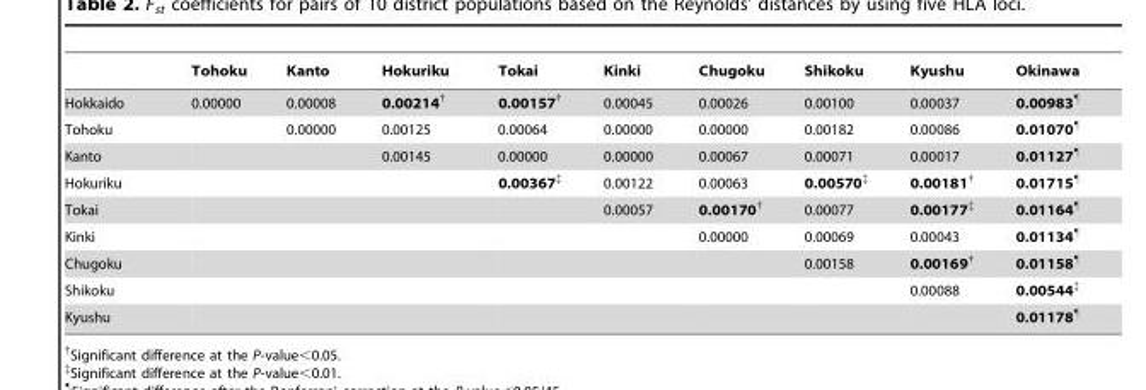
<table><thead><tr><td></td><td>Tohoku</td><td>Kanto</td><td>Hokuriku</td><td>Tokai</td><td>Kinki</td><td>Chugoku</td><td>Shikoku</td><td>Kyushu</td><td>Okinawa</td></tr></thead><tbody><tr><td>Hokkaido</td><td>0.00000</td><td>0.00008</td><td>0.00214†</td><td>0.00157†</td><td>0.00045</td><td>0.00026</td><td>0.00100</td><td>0.00037</td><td>0.00983¶</td></tr><tr><td>Tohoku</td><td></td><td>0.00000</td><td>0.00125</td><td>0.00064</td><td>0.00000</td><td>0.00000</td><td>0.00182</td><td>0.00086</td><td>0.01070¶</td></tr><tr><td>Kanto</td><td></td><td></td><td>0.00145</td><td>0.00000</td><td>0.00000</td><td>0.00067</td><td>0.00071</td><td>0.00017</td><td>0.01127¶</td></tr><tr><td>Hokuriku</td><td></td><td></td><td></td><td>0.00367‡</td><td>0.00122</td><td>0.00063</td><td>0.00570‡</td><td>0.00181†</td><td>0.01715¶</td></tr><tr><td>Tokai</td><td></td><td></td><td></td><td></td><td>0.00057</td><td>0.00170†</td><td>0.00077</td><td>0.00177‡</td><td>0.01164¶</td></tr><tr><td>Kinki</td><td></td><td></td><td></td><td></td><td></td><td>0.00000</td><td>0.00069</td><td>0.00043</td><td>0.01134¶</td></tr><tr><td>Chugoku</td><td></td><td></td><td></td><td></td><td></td><td></td><td>0.00158</td><td>0.00169†</td><td>0.01158¶</td></tr><tr><td>Shikoku</td><td></td><td></td><td></td><td></td><td></td><td></td><td></td><td>0.00088</td><td>0.00544‡</td></tr><tr><td>Kyushu</td><td></td><td></td><td></td><td></td><td></td><td></td><td></td><td></td><td>0.01178¶</td></tr></tbody></table>